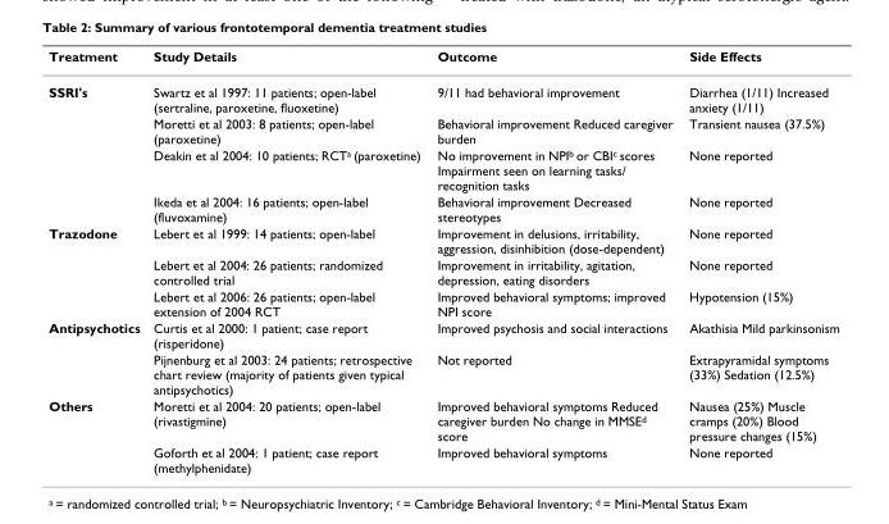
<table><thead><tr><td>Treatment</td><td>Study Details</td><td>Outcome</td><td>Side Effects</td></tr></thead><tbody><tr><td rowspan="4">SSRI&#x27;s</td><td>Swartz et al 1997: 11 patients; open-label (sertraline, paroxetine, fluoxetine)</td><td>9/11 had behavioral improvement</td><td>Diarrhea (1/11) Increased anxiety (1/11)</td></tr><tr><td>Moretti et al 2003: 8 patients; open-label (paroxetine)</td><td>Behavioral improvement Reduced caregiver burden</td><td>Transient nausea (37.5%)</td></tr><tr><td>Deakin et al 2004: 10 patients; RCT<sup>a</sup> (paroxetine)</td><td>No improvement in NPI<sup>b</sup> or CBI<sup>c</sup> scores Impairment seen on learning tasks/ recognition tasks</td><td>None reported</td></tr><tr><td>Ikeda et al 2004: 16 patients; open-label (fluvoxamine)</td><td>Behavioral improvement Decreased stereotypes</td><td>None reported</td></tr><tr><td rowspan="3">Trazodone</td><td>Lebert et al 1999: 14 patients; open-label</td><td>Improvement in delusions, irritability, aggression, disinhibition (dose-dependent)</td><td>None reported</td></tr><tr><td>Lebert et al 2004: 26 patients; randomized controlled trial</td><td>Improvement in irritability, agitation, depression, eating disorders</td><td>None reported</td></tr><tr><td>Lebert et al 2006: 26 patients; open-label extension of 2004 RCT</td><td>Improved behavioral symptoms; improved NPI score</td><td>Hypotension (15%)</td></tr><tr><td rowspan="2">Antipsychotics</td><td>Curtis et al 2000: 1 patient; case report (risperidone)</td><td>Improved psychosis and social interactions</td><td>Akathisia Mild parkinsonism</td></tr><tr><td>Pijnenburg et al 2003: 24 patients; retrospective chart review (majority of patients given typical antipsychotics)</td><td>Not reported</td><td>Extrapyramidal symptoms (33%) Sedation (12.5%)</td></tr><tr><td rowspan="2">Others</td><td>Moretti et al 2004: 20 patients; open-label (rivastigmine)</td><td>Improved behavioral symptoms Reduced caregiver burden No change in MMSE<sup>d</sup> score</td><td>Nausea (25%) Muscle cramps (20%) Blood pressure changes (15%)</td></tr><tr><td>Goforth et al 2004: 1 patient; case report (methylphenidate)</td><td>Improved behavioral symptoms</td><td>None reported</td></tr></tbody></table>